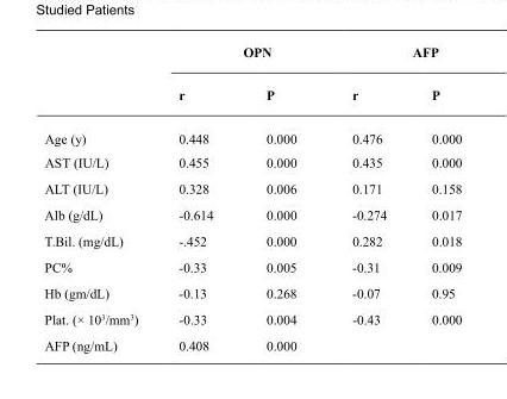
<table><thead><tr><td rowspan="2"></td><td colspan="2">OPN</td><td colspan="2">AFP</td></tr><tr><td>r</td><td>P</td><td>r</td><td>P</td></tr></thead><tbody><tr><td>Age (y)</td><td>0.448</td><td>0.000</td><td>0.476</td><td>0.000</td></tr><tr><td>AST (IU/L)</td><td>0.455</td><td>0.000</td><td>0.435</td><td>0.000</td></tr><tr><td>ALT (IU/L)</td><td>0.328</td><td>0.006</td><td>0.171</td><td>0.158</td></tr><tr><td>Alb (g/dL)</td><td>-0.614</td><td>0.000</td><td>-0.274</td><td>0.017</td></tr><tr><td>T.Bil. (mg/dL)</td><td>-.452</td><td>0.000</td><td>0.282</td><td>0.018</td></tr><tr><td>PC%</td><td>-0.33</td><td>0.005</td><td>-0.31</td><td>0.009</td></tr><tr><td>Hb (gm/dL)</td><td>-0.13</td><td>0.268</td><td>-0.07</td><td>0.95</td></tr><tr><td>Plat. (× 10<sup>3</sup>/mm<sup>3</sup>)</td><td>-0.33</td><td>0.004</td><td>-0.43</td><td>0.000</td></tr><tr><td>AFP (ng/mL)</td><td>0.408</td><td>0.000</td><td></td><td></td></tr></tbody></table>